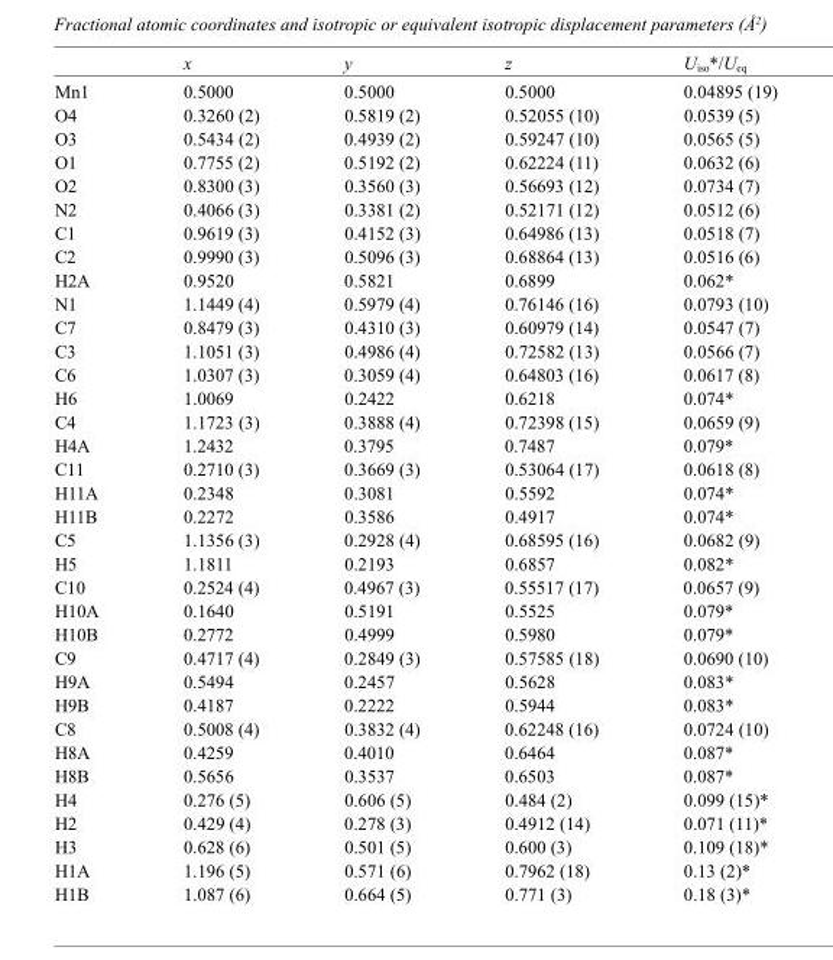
<table><thead><tr><td></td><td>x</td><td>y</td><td>z</td><td>U<sub>iso</sub>*/U<sub>eq</sub></td></tr></thead><tbody><tr><td>Mn1</td><td>0.5000</td><td>0.5000</td><td>0.5000</td><td>0.04895 (19)</td></tr><tr><td>O4</td><td>0.3260 (2)</td><td>0.5819 (2)</td><td>0.52055 (10)</td><td>0.0539 (5)</td></tr><tr><td>O3</td><td>0.5434 (2)</td><td>0.4939 (2)</td><td>0.59247 (10)</td><td>0.0565 (5)</td></tr><tr><td>O1</td><td>0.7755 (2)</td><td>0.5192 (2)</td><td>0.62224 (11)</td><td>0.0632 (6)</td></tr><tr><td>O2</td><td>0.8300 (3)</td><td>0.3560 (3)</td><td>0.56693 (12)</td><td>0.0734 (7)</td></tr><tr><td>N2</td><td>0.4066 (3)</td><td>0.3381 (2)</td><td>0.52171 (12)</td><td>0.0512 (6)</td></tr><tr><td>C1</td><td>0.9619 (3)</td><td>0.4152 (3)</td><td>0.64986 (13)</td><td>0.0518 (7)</td></tr><tr><td>C2</td><td>0.9990 (3)</td><td>0.5096 (3)</td><td>0.68864 (13)</td><td>0.0516 (6)</td></tr><tr><td>H2A</td><td>0.9520</td><td>0.5821</td><td>0.6899</td><td>0.062*</td></tr><tr><td>N1</td><td>1.1449 (4)</td><td>0.5979 (4)</td><td>0.76146 (16)</td><td>0.0793 (10)</td></tr><tr><td>C7</td><td>0.8479 (3)</td><td>0.4310 (3)</td><td>0.60979 (14)</td><td>0.0547 (7)</td></tr><tr><td>C3</td><td>1.1051 (3)</td><td>0.4986 (4)</td><td>0.72582 (13)</td><td>0.0566 (7)</td></tr><tr><td>C6</td><td>1.0307 (3)</td><td>0.3059 (4)</td><td>0.64803 (16)</td><td>0.0617 (8)</td></tr><tr><td>H6</td><td>1.0069</td><td>0.2422</td><td>0.6218</td><td>0.074*</td></tr><tr><td>C4</td><td>1.1723 (3)</td><td>0.3888 (4)</td><td>0.72398 (15)</td><td>0.0659 (9)</td></tr><tr><td>H4A</td><td>1.2432</td><td>0.3795</td><td>0.7487</td><td>0.079*</td></tr><tr><td>C11</td><td>0.2710 (3)</td><td>0.3669 (3)</td><td>0.53064 (17)</td><td>0.0618 (8)</td></tr><tr><td>H11A</td><td>0.2348</td><td>0.3081</td><td>0.5592</td><td>0.074*</td></tr><tr><td>H11B</td><td>0.2272</td><td>0.3586</td><td>0.4917</td><td>0.074*</td></tr><tr><td>C5</td><td>1.1356 (3)</td><td>0.2928 (4)</td><td>0.68595 (16)</td><td>0.0682 (9)</td></tr><tr><td>H5</td><td>1.1811</td><td>0.2193</td><td>0.6857</td><td>0.082*</td></tr><tr><td>C10</td><td>0.2524 (4)</td><td>0.4967 (3)</td><td>0.55517 (17)</td><td>0.0657 (9)</td></tr><tr><td>H10A</td><td>0.1640</td><td>0.5191</td><td>0.5525</td><td>0.079*</td></tr><tr><td>H10B</td><td>0.2772</td><td>0.4999</td><td>0.5980</td><td>0.079*</td></tr><tr><td>C9</td><td>0.4717 (4)</td><td>0.2849 (3)</td><td>0.57585 (18)</td><td>0.0690 (10)</td></tr><tr><td>H9A</td><td>0.5494</td><td>0.2457</td><td>0.5628</td><td>0.083*</td></tr><tr><td>H9B</td><td>0.4187</td><td>0.2222</td><td>0.5944</td><td>0.083*</td></tr><tr><td>C8</td><td>0.5008 (4)</td><td>0.3832 (4)</td><td>0.62248 (16)</td><td>0.0724 (10)</td></tr><tr><td>H8A</td><td>0.4259</td><td>0.4010</td><td>0.6464</td><td>0.087*</td></tr><tr><td>H8B</td><td>0.5656</td><td>0.3537</td><td>0.6503</td><td>0.087*</td></tr><tr><td>H4</td><td>0.276 (5)</td><td>0.606 (5)</td><td>0.484 (2)</td><td>0.099 (15)*</td></tr><tr><td>H2</td><td>0.429 (4)</td><td>0.278 (3)</td><td>0.4912 (14)</td><td>0.071 (11)*</td></tr><tr><td>H3</td><td>0.628 (6)</td><td>0.501 (5)</td><td>0.600 (3)</td><td>0.109 (18)*</td></tr><tr><td>H1A</td><td>1.196 (5)</td><td>0.571 (6)</td><td>0.7962 (18)</td><td>0.13 (2)*</td></tr><tr><td>H1B</td><td>1.087 (6)</td><td>0.664 (5)</td><td>0.771 (3)</td><td>0.18 (3)*</td></tr></tbody></table>